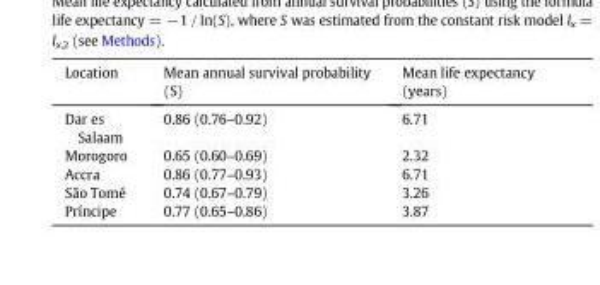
<table><thead><tr><td>Location</td><td>Mean annual survival probability (S)</td><td>Mean life expectancy (years)</td></tr></thead><tbody><tr><td>Dar es Salaam</td><td>0.86 (0.76–0.92)</td><td>6.71</td></tr><tr><td>Morogoro</td><td>0.65 (0.60–0.69)</td><td>2.32</td></tr><tr><td>Accra</td><td>0.86 (0.77–0.93)</td><td>6.71</td></tr><tr><td>São Tomé</td><td>0.74 (0.67–0.79)</td><td>3.26</td></tr><tr><td>Príncipe</td><td>0.77 (0.65–0.86)</td><td>3.87</td></tr></tbody></table>